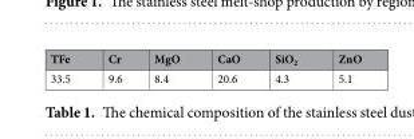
<table><thead><tr><td>TFe</td><td>Cr</td><td>MgO</td><td>CaO</td><td>SiO<sub>2</sub></td><td>ZnO</td></tr></thead><tbody><tr><td>33.5</td><td>9.6</td><td>8.4</td><td>20.6</td><td>4.3</td><td>5.1</td></tr></tbody></table>